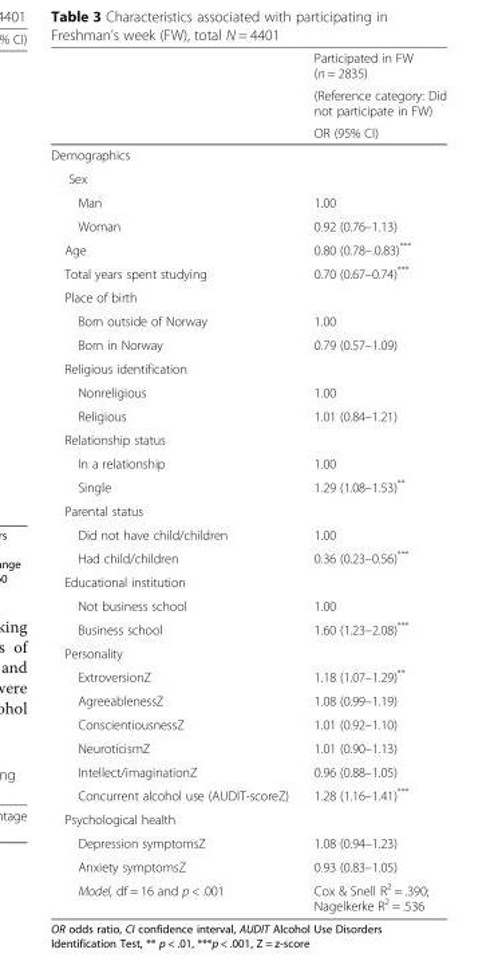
<table><thead><tr><td rowspan="3"></td><td rowspan="3">Participated in FW (n = 2835) (Reference category: Did not participate in FW) OR (95% CI)</td></tr><tr></tr><tr></tr></thead><tbody><tr><td colspan="2">Demographics</td></tr><tr><td colspan="2">Sex</td></tr><tr><td>Man</td><td>1.00</td></tr><tr><td>Woman</td><td>0.92 (0.76–1.13)</td></tr><tr><td>Age</td><td>0.80 (0.78–.0.83)***</td></tr><tr><td>Total years spent studying</td><td>0.70 (0.67–0.74)***</td></tr><tr><td colspan="2">Place of birth</td></tr><tr><td>Born outside of Norway</td><td>1.00</td></tr><tr><td>Born in Norway</td><td>0.79 (0.57–1.09)</td></tr><tr><td colspan="2">Religious identification</td></tr><tr><td>Nonreligious</td><td>1.00</td></tr><tr><td>Religious</td><td>1.01 (0.84–1.21)</td></tr><tr><td colspan="2">Relationship status</td></tr><tr><td>In a relationship</td><td>1.00</td></tr><tr><td>Single</td><td>1.29 (1.08–1.53)**</td></tr><tr><td colspan="2">Parental status</td></tr><tr><td>Did not have child/children</td><td>1.00</td></tr><tr><td>Had child/children</td><td>0.36 (0.23–0.56)***</td></tr><tr><td colspan="2">Educational institution</td></tr><tr><td>Not business school</td><td>1.00</td></tr><tr><td>Business school</td><td>1.60 (1.23–2.08)***</td></tr><tr><td colspan="2">Personality</td></tr><tr><td>ExtroversionZ</td><td>1.18 (1.07–1.29)**</td></tr><tr><td>AgreeablenessZ</td><td>1.08 (0.99–1.19)</td></tr><tr><td>ConscientiousnessZ</td><td>1.01 (0.92–1.10)</td></tr><tr><td>NeuroticismZ</td><td>1.01 (0.90–1.13)</td></tr><tr><td>Intellect/imaginationZ</td><td>0.96 (0.88–1.05)</td></tr><tr><td>Concurrent alcohol use (AUDIT-scoreZ)</td><td>1.28 (1.16–1.41)***</td></tr><tr><td colspan="2">Psychological health</td></tr><tr><td>Depression symptomsZ</td><td>1.08 (0.94–1.23)</td></tr><tr><td>Anxiety symptomsZ</td><td>0.93 (0.83–1.05)</td></tr><tr><td>Model, df = 16 and p &lt; .001</td><td>Cox &amp; Snell R<sup>2</sup> = .390; Nagelkerke R<sup>2</sup> = .536</td></tr></tbody></table>